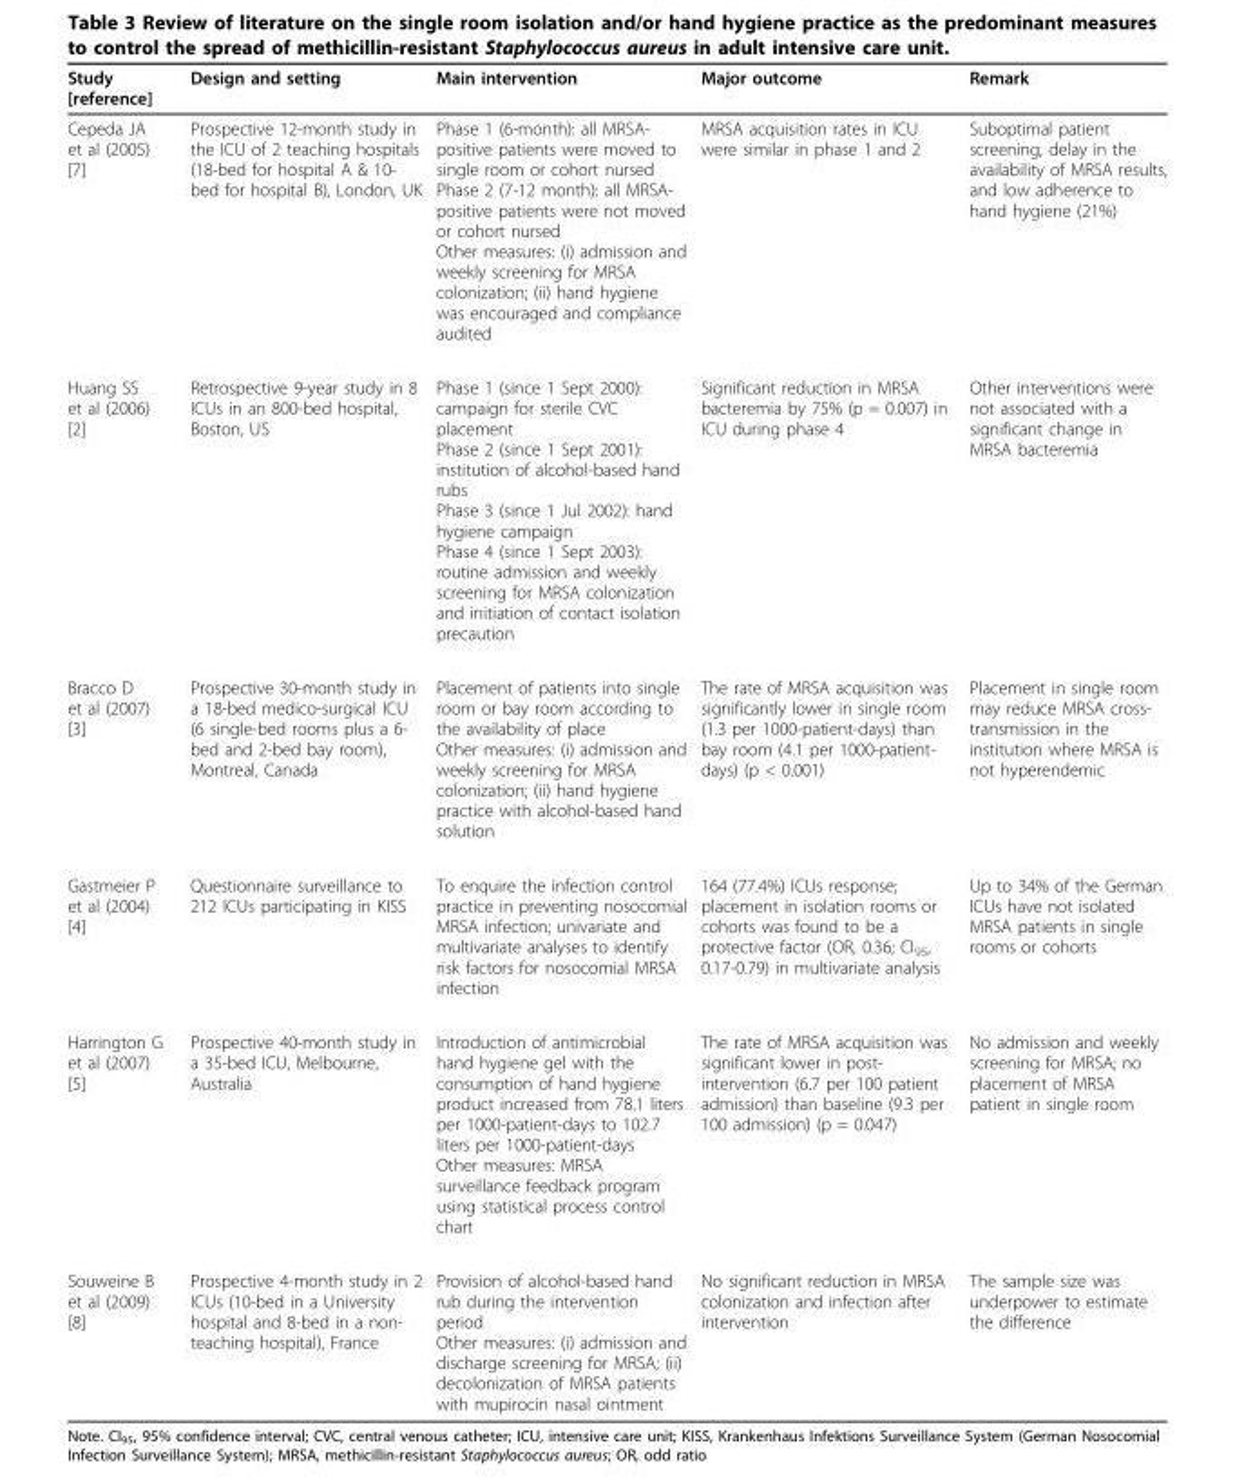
<table><thead><tr><td>Study [reference]</td><td>Design and setting</td><td>Main intervention</td><td>Major outcome</td><td>Remark</td></tr></thead><tbody><tr><td>Cepeda JA et al (2005) [7]</td><td>Prospective 12-month study in the ICU of 2 teaching hospitals (18-bed for hospital A &amp; 10- bed for hospital B), London, UK</td><td>Phase 1 (6-month): all MRSA- positive patients were moved to single room or cohort nursed Phase 2 (7-12 month): all MRSA- positive patients were not moved or cohort nursed Other measures: (i) admission and weekly screening for MRSA colonization; (ii) hand hygiene was encouraged and compliance audited</td><td>MRSA acquisition rates in ICU were similar in phase 1 and 2</td><td>Suboptimal patient screening, delay in the availability of MRSA results, and low adherence to hand hygiene (21%)</td></tr><tr><td>Huang SS et al (2006) [2]</td><td>Retrospective 9-year study in 8 ICUs in an 800-bed hospital, Boston, US</td><td>Phase 1 (since 1 Sept 2000): campaign for sterile CVC placement Phase 2 (since 1 Sept 2001): institution of alcohol-based hand rubs Phase 3 (since 1 Jul 2002): hand hygiene campaign Phase 4 (since 1 Sept 2003): routine admission and weekly screening for MRSA colonization and initiation of contact isolation precaution</td><td>Significant reduction in MRSA bacteremia by 75% (p = 0.007) in ICU during phase 4</td><td>Other interventions were not associated with a significant change in MRSA bacteremia</td></tr><tr><td>Bracco D et al (2007) [3]</td><td>Prospective 30-month study in a 18-bed medico-surgical ICU (6 single-bed rooms plus a 6- bed and 2-bed bay room), Montreal, Canada</td><td>Placement of patients into single room or bay room according to the availability of place Other measures: (i) admission and weekly screening for MRSA colonization; (ii) hand hygiene practice with alcohol-based hand solution</td><td>The rate of MRSA acquisition was significantly lower in single room (1.3 per 1000-patient-days) than bay room (4.1 per 1000-patient- days) (p &lt; 0.001)</td><td>Placement in single room may reduce MRSA cross- transmission in the institution where MRSA is not hyperendemic</td></tr><tr><td>Gastmeier P et al (2004) [4]</td><td>Questionnaire surveillance to 212 ICUs participating in KISS</td><td>To enquire the infection control practice in preventing nosocomial MRSA infection; univariate and multivariate analyses to identify risk factors for nosocomial MRSA infection</td><td>164 (77.4%) ICUs response; placement in isolation rooms or cohorts was found to be a protective factor (OR, 0.36; CI<sub>95</sub>, 0.17-0.79) in multivariate analysis</td><td>Up to 34% of the German ICUs have not isolated MRSA patients in single rooms or cohorts</td></tr><tr><td>Harrington G et al (2007) [5]</td><td>Prospective 40-month study in a 35-bed ICU, Melbourne, Australia</td><td>Introduction of antimicrobial hand hygiene gel with the consumption of hand hygiene product increased from 78.1 liters per 1000-patient-days to 102.7 liters per 1000-patient-days Other measures: MRSA surveillance feedback program using statistical process control chart</td><td>The rate of MRSA acquisition was significant lower in post- intervention (6.7 per 100 patient admission) than baseline (9.3 per 100 admission) (p = 0.047)</td><td>No admission and weekly screening for MRSA; no placement of MRSA patient in single room</td></tr><tr><td>Souweine B et al (2009) [8]</td><td>Prospective 4-month study in 2 ICUs (10-bed in a University hospital and 8-bed in a non- teaching hospital), France</td><td>Provision of alcohol-based hand rub during the intervention period Other measures: (i) admission and discharge screening for MRSA; (ii) decolonization of MRSA patients with mupirocin nasal ointment</td><td>No significant reduction in MRSA colonization and infection after intervention</td><td>The sample size was underpower to estimate the difference</td></tr></tbody></table>